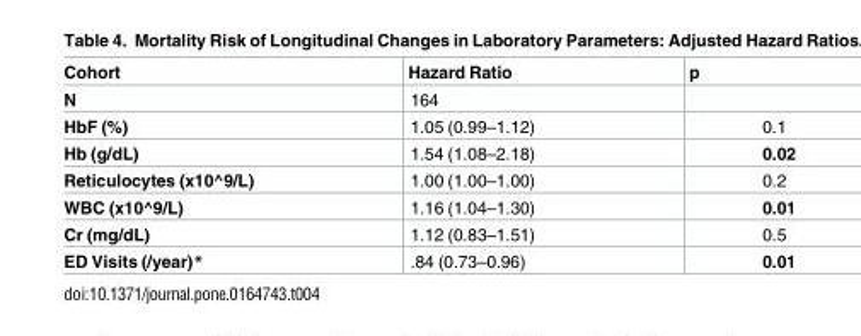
<table><thead><tr><td>Cohort</td><td>Hazard Ratio</td><td>p</td></tr></thead><tbody><tr><td>N</td><td>164</td><td></td></tr><tr><td>HbF (%)</td><td>1.05 (0.99–1.12)</td><td>0.1</td></tr><tr><td>Hb (g/dL)</td><td>1.54 (1.08–2.18)</td><td>0.02</td></tr><tr><td>Reticulocytes (x10^9/L)</td><td>1.00 (1.00–1.00)</td><td>0.2</td></tr><tr><td>WBC (x10^9/L)</td><td>1.16 (1.04–1.30)</td><td>0.01</td></tr><tr><td>Cr (mg/dL)</td><td>1.12 (0.83–1.51)</td><td>0.5</td></tr><tr><td>ED Visits (/year)*</td><td>.84 (0.73–0.96)</td><td>0.01</td></tr></tbody></table>